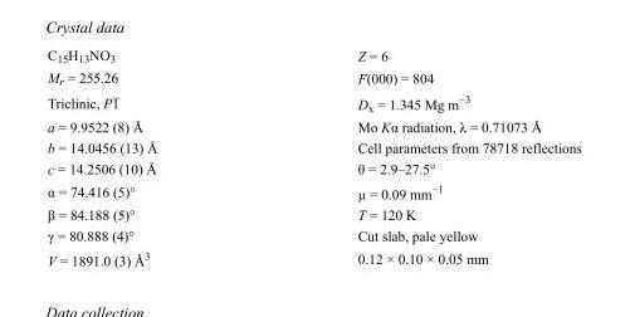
<table><tbody><tr><td>C<sub>15</sub>H<sub>13</sub>NO<sub>3</sub></td><td>Z = 6</td></tr><tr><td>M<sub>r</sub> = 255.26</td><td>F(000) = 804</td></tr><tr><td>Triclinic, P1</td><td>D<sub>x</sub> = 1.345 Mg m<sup>−3</sup></td></tr><tr><td>a = 9.9522 (8) Å</td><td>Mo Kα radiation, λ = 0.71073 Å</td></tr><tr><td>b = 14.0456 (13) Å</td><td>Cell parameters from 78718 reflections</td></tr><tr><td>c = 14.2506 (10) Å</td><td>θ = 2.9–27.5°</td></tr><tr><td>α = 74.416 (5)°</td><td>µ = 0.09 mm<sup>−1</sup></td></tr><tr><td>β = 84.188 (5)°</td><td>T = 120 K</td></tr><tr><td>γ = 80.888 (4)°</td><td>Cut slab, pale yellow</td></tr><tr><td>V = 1891.0 (3) Å<sup>3</sup></td><td>0.12 × 0.10 × 0.05 mm</td></tr></tbody></table>